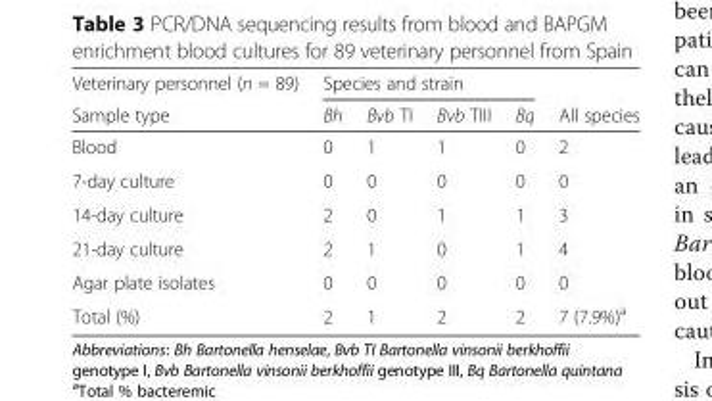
<table><thead><tr><td rowspan="2">Veterinary personnel (n = 89) Sample type</td><td colspan="4">Species and strain</td><td rowspan="2">All species</td></tr><tr><td>Bh</td><td>Bvb TI</td><td>Bvb TIII</td><td>Bq</td></tr></thead><tbody><tr><td>Blood</td><td>0</td><td>1</td><td>1</td><td>0</td><td>2</td></tr><tr><td>7-day culture</td><td>0</td><td>0</td><td>0</td><td>0</td><td>0</td></tr><tr><td>14-day culture</td><td>2</td><td>0</td><td>1</td><td>1</td><td>3</td></tr><tr><td>21-day culture</td><td>2</td><td>1</td><td>0</td><td>1</td><td>4</td></tr><tr><td>Agar plate isolates</td><td>0</td><td>0</td><td>0</td><td>0</td><td>0</td></tr><tr><td>Total (%)</td><td>2</td><td>1</td><td>2</td><td>2</td><td>7 (7.9%)<sup>a</sup></td></tr></tbody></table>